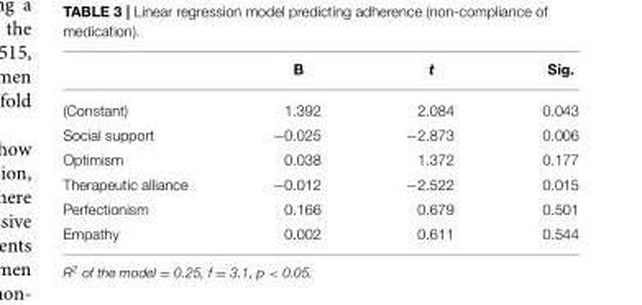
<table><thead><tr><td></td><td>B</td><td>t</td><td>Sig.</td></tr></thead><tbody><tr><td>(Constant)</td><td>1.392</td><td>2.084</td><td>0.043</td></tr><tr><td>Social support</td><td>−0.025</td><td>−2.873</td><td>0.006</td></tr><tr><td>Optimism</td><td>0.038</td><td>1.372</td><td>0.177</td></tr><tr><td>Therapeutic alliance</td><td>−0.012</td><td>−2.522</td><td>0.015</td></tr><tr><td>Perfectionism</td><td>0.166</td><td>0.679</td><td>0.501</td></tr><tr><td>Empathy</td><td>0.002</td><td>0.611</td><td>0.544</td></tr></tbody></table>